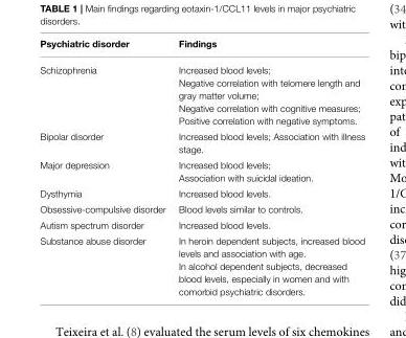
<table><thead><tr><td>Psychiatric disorder</td><td>Findings</td></tr></thead><tbody><tr><td>Schizophrenia</td><td>Increased blood levels; Negative correlation with telomere length and gray matter volume; Negative correlation with cognitive measures; Positive correlation with negative symptoms.</td></tr><tr><td>Bipolar disorder</td><td>Increased blood levels; Association with illness stage.</td></tr><tr><td>Major depression</td><td>Increased blood levels; Association with suicidal ideation.</td></tr><tr><td>Dysthymia</td><td>Increased blood levels.</td></tr><tr><td>Obsessive-compulsive disorder</td><td>Blood levels similar to controls.</td></tr><tr><td>Autism spectrum disorder</td><td>Increased blood levels.</td></tr><tr><td>Substance abuse disorder</td><td>In heroin dependent subjects, increased blood levels and association with age. In alcohol dependent subjects, decreased blood levels, especially in women and with comorbid psychiatric disorders.</td></tr></tbody></table>